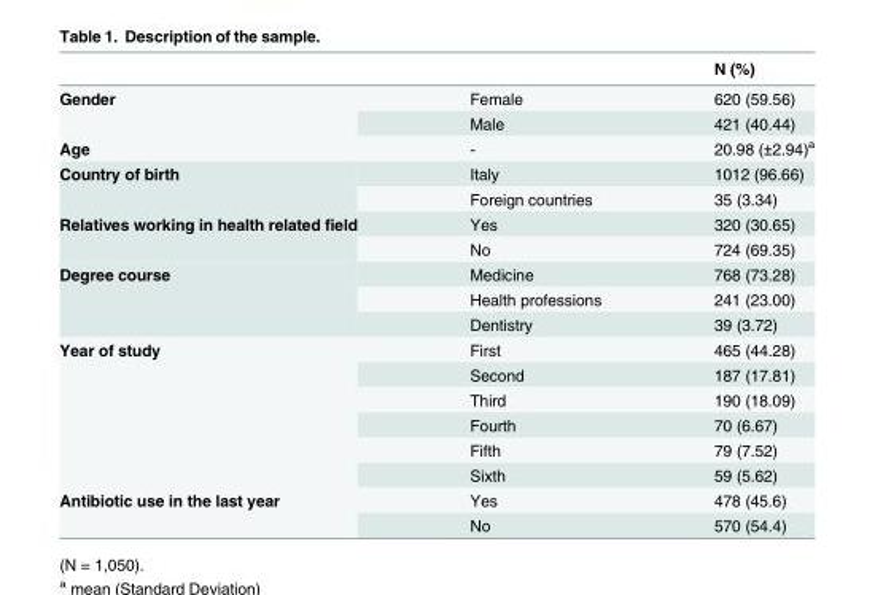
<table><thead><tr><td></td><td></td><td>N (%)</td></tr></thead><tbody><tr><td rowspan="2">Gender</td><td>Female</td><td>620 (59.56)</td></tr><tr><td>Male</td><td>421 (40.44)</td></tr><tr><td>Age</td><td>-</td><td>20.98 (±2.94)<sup>a</sup></td></tr><tr><td rowspan="2">Country of birth</td><td>Italy</td><td>1012 (96.66)</td></tr><tr><td>Foreign countries</td><td>35 (3.34)</td></tr><tr><td rowspan="2">Relatives working in health related field</td><td>Yes</td><td>320 (30.65)</td></tr><tr><td>No</td><td>724 (69.35)</td></tr><tr><td rowspan="3">Degree course</td><td>Medicine</td><td>768 (73.28)</td></tr><tr><td>Health professions</td><td>241 (23.00)</td></tr><tr><td>Dentistry</td><td>39 (3.72)</td></tr><tr><td rowspan="6">Year of study</td><td>First</td><td>465 (44.28)</td></tr><tr><td>Second</td><td>187 (17.81)</td></tr><tr><td>Third</td><td>190 (18.09)</td></tr><tr><td>Fourth</td><td>70 (6.67)</td></tr><tr><td>Fifth</td><td>79 (7.52)</td></tr><tr><td>Sixth</td><td>59 (5.62)</td></tr><tr><td rowspan="2">Antibiotic use in the last year</td><td>Yes</td><td>478 (45.6)</td></tr><tr><td>No</td><td>570 (54.4)</td></tr></tbody></table>